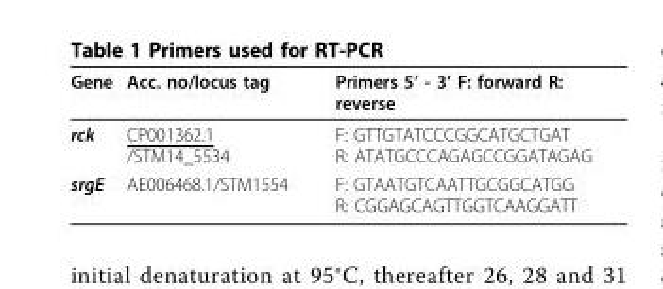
<table><thead><tr><td>Gene</td><td>Acc. no/locus tag</td><td>Primers 5’ - 3’ F: forward R: reverse</td></tr></thead><tbody><tr><td>rck</td><td>CP001362.1 /STM14_5534</td><td>F: GTTGTATCCCGGCATGCTGAT R: ATATGCCCAGAGCCGGATAGAG</td></tr><tr><td>srgE</td><td>AE006468.1/STM1554</td><td>F: GTAATGTCAATTGCGGCATGG R: CGGAGCAGTTGGTCAAGGATT</td></tr></tbody></table>